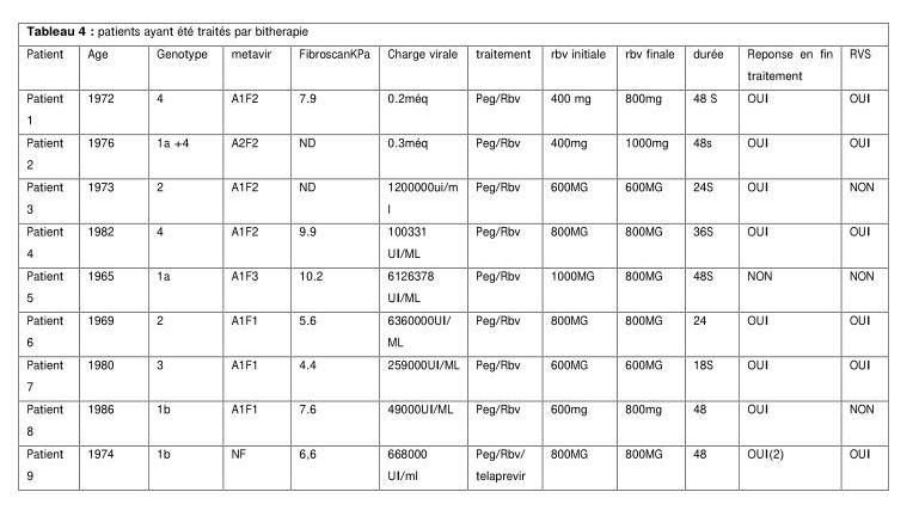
<table><thead><tr><td>Patient</td><td>Age</td><td>Genotype</td><td>metavir</td><td>FibroscanKPa</td><td>Charge virale</td><td>traitement</td><td>rbv initiale</td><td>rbv finale</td><td>durée</td><td>Reponse en fin traitement</td><td>RVS</td></tr></thead><tbody><tr><td>Patient 1</td><td>1972</td><td>4</td><td>A1F2</td><td>7.9</td><td>0.2méq</td><td>Peg/Rbv</td><td>400 mg</td><td>800mg</td><td>48 S</td><td>OUI</td><td>OUI</td></tr><tr><td>Patient 2</td><td>1976</td><td>1a +4</td><td>A2F2</td><td>ND</td><td>0.3méq</td><td>Peg/Rbv</td><td>400mg</td><td>1000mg</td><td>48s</td><td>OUI</td><td>OUI</td></tr><tr><td>Patient 3</td><td>1973</td><td>2</td><td>A1F2</td><td>ND</td><td>1200000ui/m l</td><td>Peg/Rbv</td><td>600MG</td><td>600MG</td><td>24S</td><td>OUI</td><td>NON</td></tr><tr><td>Patient 4</td><td>1982</td><td>4</td><td>A1F2</td><td>9.9</td><td>100331 UI/ML</td><td>Peg/Rbv</td><td>800MG</td><td>800MG</td><td>36S</td><td>OUI</td><td>OUI</td></tr><tr><td>Patient 5</td><td>1965</td><td>1a</td><td>A1F3</td><td>10.2</td><td>6126378 UI/ML</td><td>Peg/Rbv</td><td>1000MG</td><td>800MG</td><td>48S</td><td>NON</td><td>NON</td></tr><tr><td>Patient 6</td><td>1969</td><td>2</td><td>A1F1</td><td>5.6</td><td>6360000UI/ ML</td><td>Peg/Rbv</td><td>800MG</td><td>800MG</td><td>24</td><td>OUI</td><td>OUI</td></tr><tr><td>Patient 7</td><td>1980</td><td>3</td><td>A1F1</td><td>4.4</td><td>259000UI/ML</td><td>Peg/Rbv</td><td>600MG</td><td>600MG</td><td>18S</td><td>OUI</td><td>OUI</td></tr><tr><td>Patient 8</td><td>1986</td><td>1b</td><td>A1F1</td><td>7.6</td><td>49000UI/ML</td><td>Peg/Rbv</td><td>600mg</td><td>800mg</td><td>48</td><td>OUI</td><td>NON</td></tr><tr><td>Patient 9</td><td>1974</td><td>1b</td><td>NF</td><td>6,6</td><td>668000 UI/ml</td><td>Peg/Rbv/ telaprevir</td><td>800MG</td><td>800MG</td><td>48</td><td>OUI(2)</td><td>OUI</td></tr></tbody></table>